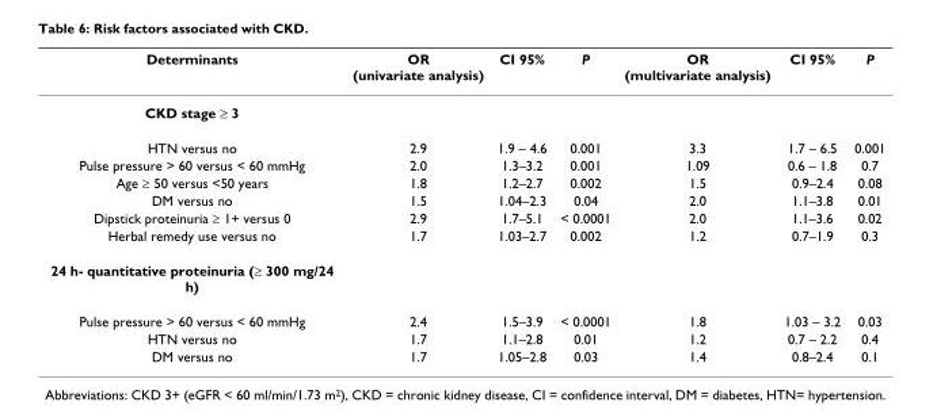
<table><thead><tr><td>Determinants</td><td>OR (univariate analysis)</td><td>CI 95%</td><td>P</td><td>OR (multivariate analysis)</td><td>CI 95%</td><td>P</td></tr></thead><tbody><tr><td colspan="7">CKD stage ≥ 3</td></tr><tr><td>HTN versus no</td><td>2.9</td><td>1.9 – 4.6</td><td>0.001</td><td>3.3</td><td>1.7 – 6.5</td><td>0.001</td></tr><tr><td>Pulse pressure &gt; 60 versus &lt; 60 mmHg</td><td>2.0</td><td>1.3–3.2</td><td>0.001</td><td>1.09</td><td>0.6 – 1.8</td><td>0.7</td></tr><tr><td>Age ≥ 50 versus &lt;50 years</td><td>1.8</td><td>1.2–2.7</td><td>0.002</td><td>1.5</td><td>0.9–2.4</td><td>0.08</td></tr><tr><td>DM versus no</td><td>1.5</td><td>1.04–2.3</td><td>0.04</td><td>2.0</td><td>1.1–3.8</td><td>0.01</td></tr><tr><td>Dipstick proteinuria ≥ 1+ versus 0</td><td>2.9</td><td>1.7–5.1</td><td>&lt; 0.0001</td><td>2.0</td><td>1.1–3.6</td><td>0.02</td></tr><tr><td>Herbal remedy use versus no</td><td>1.7</td><td>1.03–2.7</td><td>0.002</td><td>1.2</td><td>0.7–1.9</td><td>0.3</td></tr><tr><td colspan="7">24 h- quantitative proteinuria (≥ 300 mg/24 h)</td></tr><tr><td>Pulse pressure &gt; 60 versus &lt; 60 mmHg</td><td>2.4</td><td>1.5–3.9</td><td>&lt; 0.0001</td><td>1.8</td><td>1.03 – 3.2</td><td>0.03</td></tr><tr><td>HTN versus no</td><td>1.7</td><td>1.1–2.8</td><td>0.01</td><td>1.2</td><td>0.7 – 2.2</td><td>0.4</td></tr><tr><td>DM versus no</td><td>1.7</td><td>1.05–2.8</td><td>0.03</td><td>1.4</td><td>0.8–2.4</td><td>0.1</td></tr></tbody></table>